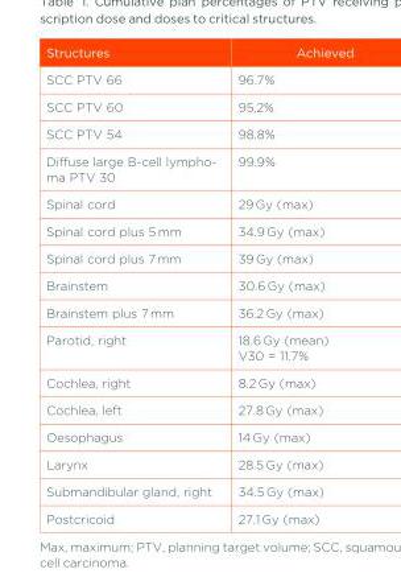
<table><thead><tr><td>Structures</td><td>Achieved</td></tr></thead><tbody><tr><td>SCC PTV 66</td><td>96.7%</td></tr><tr><td>SCC PTV 60</td><td>95.2%</td></tr><tr><td>SCC PTV 54</td><td>98.8%</td></tr><tr><td>Diffuse large B-cell lympho- ma PTV 30</td><td>99.9%</td></tr><tr><td>Spinal cord</td><td>29 Gy (max)</td></tr><tr><td>Spinal cord plus 5 mm</td><td>34.9 Gy (max)</td></tr><tr><td>Spinal cord plus 7 mm</td><td>39 Gy (max)</td></tr><tr><td>Brainstem</td><td>30.6 Gy (max)</td></tr><tr><td>Brainstem plus 7 mm</td><td>36.2 Gy (max)</td></tr><tr><td>Parotid, right</td><td>18.6 Gy (mean) V30 = 11.7%</td></tr><tr><td>Cochlea, right</td><td>8.2 Gy (max)</td></tr><tr><td>Cochlea, left</td><td>27.8 Gy (max)</td></tr><tr><td>Oesophagus</td><td>14 Gy (max)</td></tr><tr><td>Larynx</td><td>28.5 Gy (max)</td></tr><tr><td>Submandibular gland, right</td><td>34.5 Gy (max)</td></tr><tr><td>Postcricoid</td><td>27.1 Gy (max)</td></tr></tbody></table>